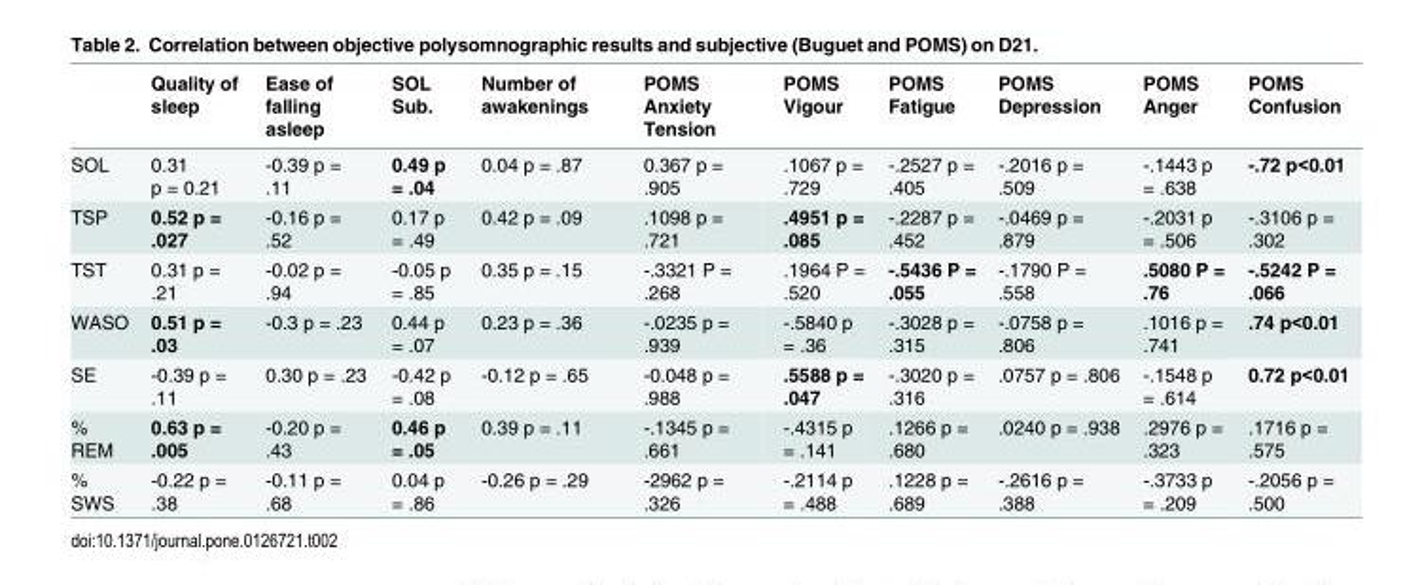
<table><thead><tr><td></td><td>Quality of sleep</td><td>Ease of falling asleep</td><td>SOL Sub.</td><td>Number of awakenings</td><td>POMS Anxiety Tension</td><td>POMS Vigour</td><td>POMS Fatigue</td><td>POMS Depression</td><td>POMS Anger</td><td>POMS Confusion</td></tr></thead><tbody><tr><td>SOL</td><td>0.31 p = 0.21</td><td>-0.39 p = .11</td><td>0.49 p = .04</td><td>0.04 p = .87</td><td>0.367 p = .905</td><td>.1067 p = .729</td><td>-.2527 p = .405</td><td>-.2016 p = .509</td><td>-.1443 p = .638</td><td>-.72 p&lt;0.01</td></tr><tr><td>TSP</td><td>0.52 p = .027</td><td>-0.16 p = .52</td><td>0.17 p = .49</td><td>0.42 p = .09</td><td>.1098 p = .721</td><td>.4951 p = .085</td><td>-.2287 p = .452</td><td>-.0469 p = .879</td><td>-.2031 p = .506</td><td>-.3106 p = .302</td></tr><tr><td>TST</td><td>0.31 p = .21</td><td>-0.02 p = .94</td><td>-0.05 p = .85</td><td>0.35 p = .15</td><td>-.3321 P = .268</td><td>.1964 P = .520</td><td>-.5436 P = .055</td><td>-.1790 P = .558</td><td>.5080 P = .76</td><td>-.5242 P = .066</td></tr><tr><td>WASO</td><td>0.51 p = .03</td><td>-0.3 p = .23</td><td>0.44 p = .07</td><td>0.23 p = .36</td><td>-.0235 p = .939</td><td>-.5840 p = .36</td><td>-.3028 p = .315</td><td>-.0758 p = .806</td><td>.1016 p = .741</td><td>.74 p&lt;0.01</td></tr><tr><td>SE</td><td>-0.39 p = .11</td><td>0.30 p = .23</td><td>-0.42 p = .08</td><td>-0.12 p = .65</td><td>-0.048 p = .988</td><td>.5588 p = .047</td><td>-.3020 p = .316</td><td>.0757 p = .806</td><td>-.1548 p = .614</td><td>0.72 p&lt;0.01</td></tr><tr><td>% REM</td><td>0.63 p = .005</td><td>-0.20 p = .43</td><td>0.46 p = .05</td><td>0.39 p = .11</td><td>-.1345 p = .661</td><td>-.4315 p = .141</td><td>.1266 p = .680</td><td>.0240 p = .938</td><td>.2976 p = .323</td><td>.1716 p = .575</td></tr><tr><td>% SWS</td><td>-0.22 p = .38</td><td>-0.11 p = .68</td><td>0.04 p = .86</td><td>-0.26 p = .29</td><td>-2962 p = .326</td><td>-.2114 p = .488</td><td>.1228 p = .689</td><td>-.2616 p = .388</td><td>-.3733 p = .209</td><td>-.2056 p = .500</td></tr></tbody></table>